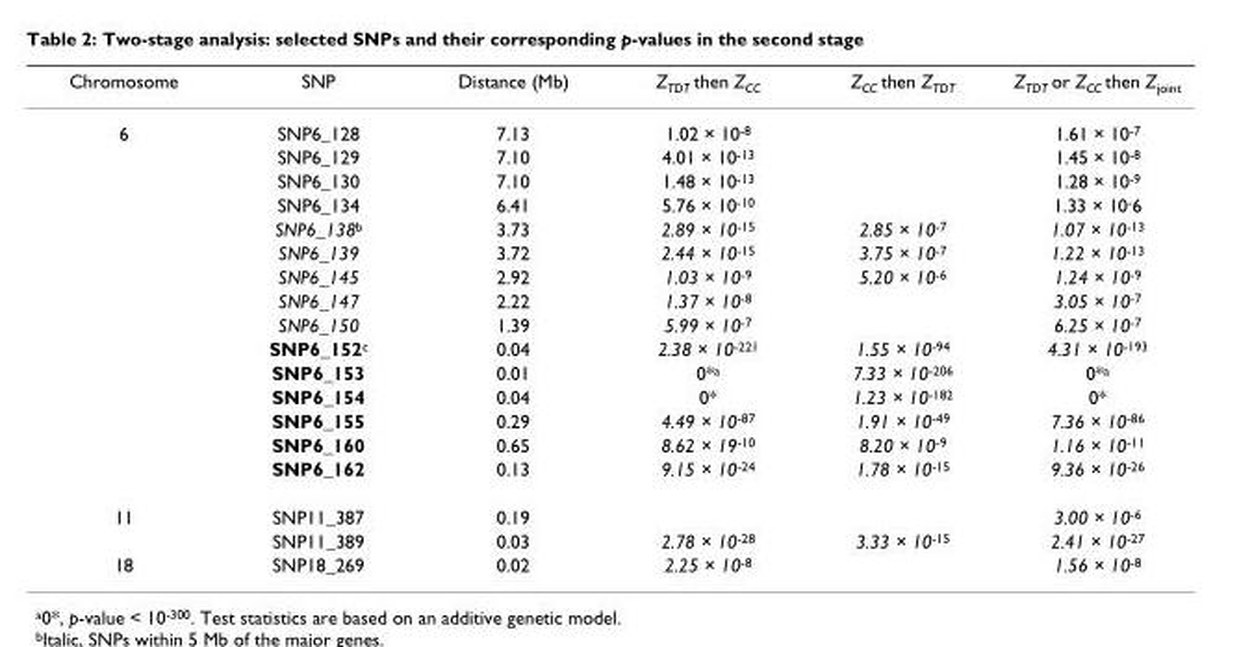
<table><thead><tr><td>Chromosome</td><td>SNP</td><td>Distance (Mb)</td><td>Z<sub>TDT</sub> then Z<sub>CC</sub></td><td>Z<sub>CC</sub> then Z<sub>TDT</sub></td><td>Z<sub>TDT</sub> or Z<sub>CC</sub> then Z<sub>joint</sub></td></tr></thead><tbody><tr><td rowspan="15">6</td><td>SNP6_128</td><td>7.13</td><td>1.02 × 10<sup>-8</sup></td><td></td><td>1.61 × 10<sup>-7</sup></td></tr><tr><td>SNP6_129</td><td>7.10</td><td>4.01 × 10<sup>-13</sup></td><td></td><td>1.45 × 10<sup>-8</sup></td></tr><tr><td>SNP6_130</td><td>7.10</td><td>1.48 × 10<sup>-13</sup></td><td></td><td>1.28 × 10<sup>-9</sup></td></tr><tr><td>SNP6_134</td><td>6.41</td><td>5.76 × 10<sup>-10</sup></td><td></td><td>1.33 × 10<sup>-</sup>6</td></tr><tr><td>SNP6_138<sup>b</sup></td><td>3.73</td><td>2.89 × 10<sup>-15</sup></td><td>2.85 × 10<sup>-7</sup></td><td>1.07 × 10<sup>-13</sup></td></tr><tr><td>SNP6_139</td><td>3.72</td><td>2.44 × 10<sup>-15</sup></td><td>3.75 × 10<sup>-7</sup></td><td>1.22 × 10<sup>-13</sup></td></tr><tr><td>SNP6_145</td><td>2.92</td><td>1.03 × 10<sup>-9</sup></td><td>5.20 × 10<sup>-6</sup></td><td>1.24 × 10<sup>-9</sup></td></tr><tr><td>SNP6_147</td><td>2.22</td><td>1.37 × 10<sup>-8</sup></td><td></td><td>3.05 × 10<sup>-7</sup></td></tr><tr><td>SNP6_150</td><td>1.39</td><td>5.99 × 10<sup>-7</sup></td><td></td><td>6.25 × 10<sup>-7</sup></td></tr><tr><td>SNP6_152<sup>c</sup></td><td>0.04</td><td>2.38 × 10<sup>-221</sup></td><td>1.55 × 10<sup>-94</sup></td><td>4.31 × 10<sup>-193</sup></td></tr><tr><td>SNP6_153</td><td>0.01</td><td>0*<sup>a</sup></td><td>7.33 × 10<sup>-206</sup></td><td>0*<sup>a</sup></td></tr><tr><td>SNP6_154</td><td>0.04</td><td>0*</td><td>1.23 × 10<sup>-182</sup></td><td>0*</td></tr><tr><td>SNP6_155</td><td>0.29</td><td>4.49 × 10<sup>-87</sup></td><td>1.91 × 10<sup>-49</sup></td><td>7.36 × 10<sup>-86</sup></td></tr><tr><td>SNP6_160</td><td>0.65</td><td>8.62 × 19<sup>-10</sup></td><td>8.20 × 10<sup>-9</sup></td><td>1.16 × 10<sup>-11</sup></td></tr><tr><td>SNP6_162</td><td>0.13</td><td>9.15 × 10<sup>-24</sup></td><td>1.78 × 10<sup>-15</sup></td><td>9.36 × 10<sup>-26</sup></td></tr><tr><td rowspan="2">11</td><td>SNP11_387</td><td>0.19</td><td></td><td></td><td>3.00 × 10<sup>-6</sup></td></tr><tr><td>SNP11_389</td><td>0.03</td><td>2.78 × 10<sup>-28</sup></td><td>3.33 × 10<sup>-15</sup></td><td>2.41 × 10<sup>-27</sup></td></tr><tr><td>18</td><td>SNP18_269</td><td>0.02</td><td>2.25 × 10<sup>-8</sup></td><td></td><td>1.56 × 10<sup>-8</sup></td></tr></tbody></table>